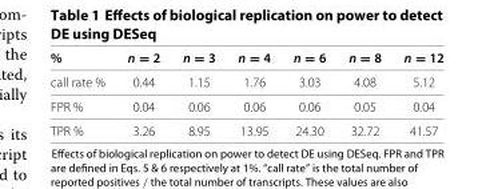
<table><thead><tr><td>%</td><td>n = 2</td><td>n = 3</td><td>n = 4</td><td>n = 6</td><td>n = 8</td><td>n = 12</td></tr></thead><tbody><tr><td>call rate %</td><td>0.44</td><td>1.15</td><td>1.76</td><td>3.03</td><td>4.08</td><td>5.12</td></tr><tr><td>FPR %</td><td>0.04</td><td>0.06</td><td>0.06</td><td>0.06</td><td>0.05</td><td>0.04</td></tr><tr><td>TPR %</td><td>3.26</td><td>8.95</td><td>13.95</td><td>24.30</td><td>32.72</td><td>41.57</td></tr></tbody></table>